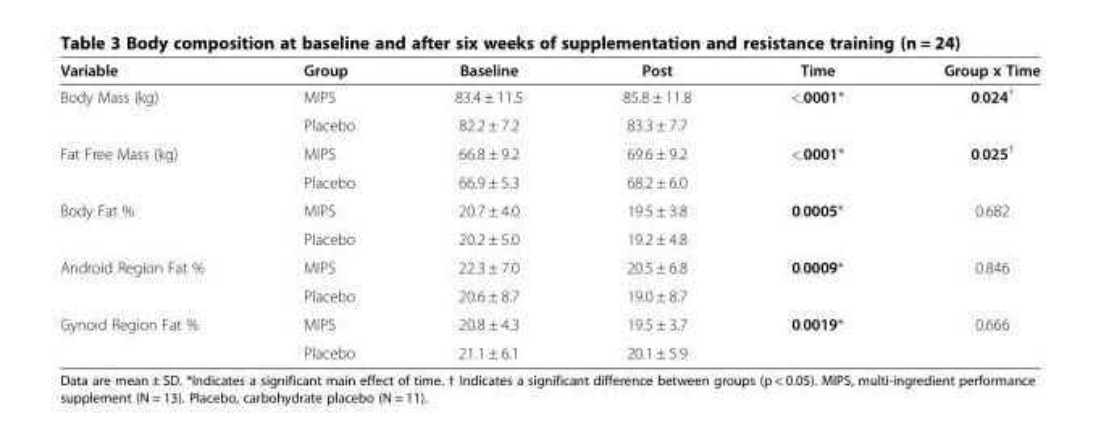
<table><thead><tr><td>Variable</td><td>Group</td><td>Baseline</td><td>Post</td><td>Time</td><td>Group x Time</td></tr></thead><tbody><tr><td rowspan="2">Body Mass (kg)</td><td>MIPS</td><td>83.4 ± 11.5</td><td>85.8 ± 11.8</td><td>&lt;.0001*</td><td>0.024<sup>†</sup></td></tr><tr><td>Placebo</td><td>82.2 ± 7.2</td><td>83.3 ± 7.7</td><td></td><td></td></tr><tr><td rowspan="2">Fat Free Mass (kg)</td><td>MIPS</td><td>66.8 ± 9.2</td><td>69.6 ± 9.2</td><td>&lt;.0001*</td><td>0.025<sup>†</sup></td></tr><tr><td>Placebo</td><td>66.9 ± 5.3</td><td>68.2 ± 6.0</td><td></td><td></td></tr><tr><td rowspan="2">Body Fat %</td><td>MIPS</td><td>20.7 ± 4.0</td><td>19.5 ± 3.8</td><td>0.0005*</td><td>0.682</td></tr><tr><td>Placebo</td><td>20.2 ± 5.0</td><td>19.2 ± 4.8</td><td></td><td></td></tr><tr><td rowspan="2">Android Region Fat %</td><td>MIPS</td><td>22.3 ± 7.0</td><td>20.5 ± 6.8</td><td>0.0009*</td><td>0.846</td></tr><tr><td>Placebo</td><td>20.6 ± 8.7</td><td>19.0 ± 8.7</td><td></td><td></td></tr><tr><td rowspan="2">Gynoid Region Fat %</td><td>MIPS</td><td>20.8 ± 4.3</td><td>19.5 ± 3.7</td><td>0.0019*</td><td>0.666</td></tr><tr><td>Placebo</td><td>21.1 ± 6.1</td><td>20.1 ± 5.9</td><td></td><td></td></tr></tbody></table>